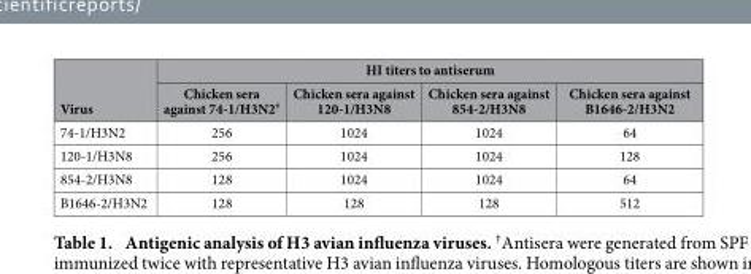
<table><thead><tr><td rowspan="2">Virus</td><td colspan="4">HI titers to antiserum</td></tr><tr><td>Chicken sera against 74-1/H3N2†</td><td>Chicken sera against 120-1/H3N8</td><td>Chicken sera against 854-2/H3N8</td><td>Chicken sera against B1646-2/H3N2</td></tr></thead><tbody><tr><td>74-1/H3N2</td><td>256</td><td>1024</td><td>1024</td><td>64</td></tr><tr><td>120-1/H3N8</td><td>256</td><td>1024</td><td>1024</td><td>128</td></tr><tr><td>854-2/H3N8</td><td>128</td><td>1024</td><td>1024</td><td>64</td></tr><tr><td>B1646-2/H3N2</td><td>128</td><td>128</td><td>128</td><td>512</td></tr></tbody></table>